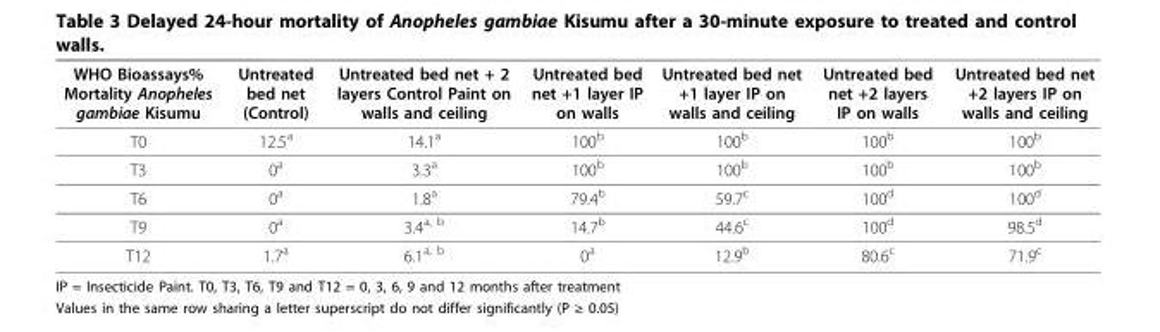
<table><thead><tr><td>WHO Bioassays% Mortality Anopheles gambiae Kisumu</td><td>Untreated bed net (Control)</td><td>Untreated bed net + 2 layers Control Paint on walls and ceiling</td><td>Untreated bed net +1 layer IP on walls</td><td>Untreated bed net +1 layer IP on walls and ceiling</td><td>Untreated bed net +2 layers IP on walls</td><td>Untreated bed net +2 layers IP on walls and ceiling</td></tr></thead><tbody><tr><td>T0</td><td>12.5<sup>a</sup></td><td>14.1<sup>a</sup></td><td>100<sup>b</sup></td><td>100<sup>b</sup></td><td>100<sup>b</sup></td><td>100<sup>b</sup></td></tr><tr><td>T3</td><td>0<sup>a</sup></td><td>3.3<sup>a</sup></td><td>100<sup>b</sup></td><td>100<sup>b</sup></td><td>100<sup>b</sup></td><td>100<sup>b</sup></td></tr><tr><td>T6</td><td>0<sup>a</sup></td><td>1.8<sup>a</sup></td><td>79.4<sup>b</sup></td><td>59.7<sup>c</sup></td><td>100<sup>d</sup></td><td>100<sup>d</sup></td></tr><tr><td>T9</td><td>0<sup>a</sup></td><td>3.4<sup>a, b</sup></td><td>14.7<sup>b</sup></td><td>44.6<sup>c</sup></td><td>100<sup>d</sup></td><td>98.5<sup>d</sup></td></tr><tr><td>T12</td><td>1.7<sup>a</sup></td><td>6.1<sup>a, b</sup></td><td>0<sup>a</sup></td><td>12.9<sup>b</sup></td><td>80.6<sup>c</sup></td><td>71.9<sup>c</sup></td></tr></tbody></table>